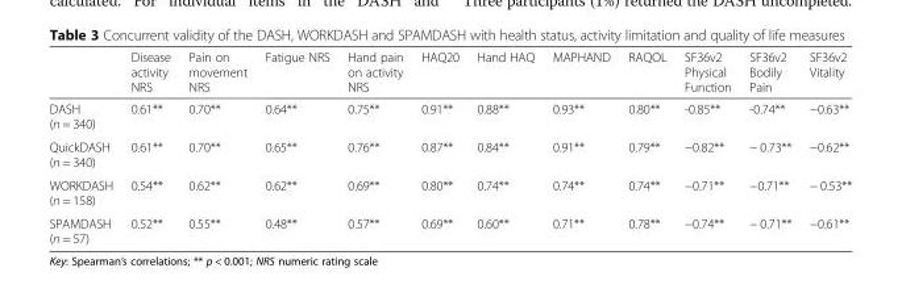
<table><thead><tr><td></td><td>Disease activity NRS</td><td>Pain on movement NRS</td><td>Fatigue NRS</td><td>Hand pain on activity NRS</td><td>HAQ20</td><td>Hand HAQ</td><td>MAPHAND</td><td>RAQOL</td><td>SF36v2 Physical Function</td><td>SF36v2 Bodily Pain</td><td>SF36v2 Vitality</td></tr></thead><tbody><tr><td>DASH (n = 340)</td><td>0.61**</td><td>0.70**</td><td>0.64**</td><td>0.75**</td><td>0.91**</td><td>0.88**</td><td>0.93**</td><td>0.80**</td><td>-0.85**</td><td>-0.74**</td><td>−0.63**</td></tr><tr><td>QuickDASH (n = 340)</td><td>0.61**</td><td>0.70**</td><td>0.65**</td><td>0.76**</td><td>0.87**</td><td>0.84**</td><td>0.91**</td><td>0.79**</td><td>−0.82**</td><td>− 0.73**</td><td>−0.62**</td></tr><tr><td>WORKDASH (n = 158)</td><td>0.54**</td><td>0.62**</td><td>0.62**</td><td>0.69**</td><td>0.80**</td><td>0.74**</td><td>0.74**</td><td>0.74**</td><td>−0.71**</td><td>−0.71**</td><td>− 0.53**</td></tr><tr><td>SPAMDASH (n = 57)</td><td>0.52**</td><td>0.55**</td><td>0.48**</td><td>0.57**</td><td>0.69**</td><td>0.60**</td><td>0.71**</td><td>0.78**</td><td>−0.74**</td><td>− 0.71**</td><td>−0.61**</td></tr></tbody></table>